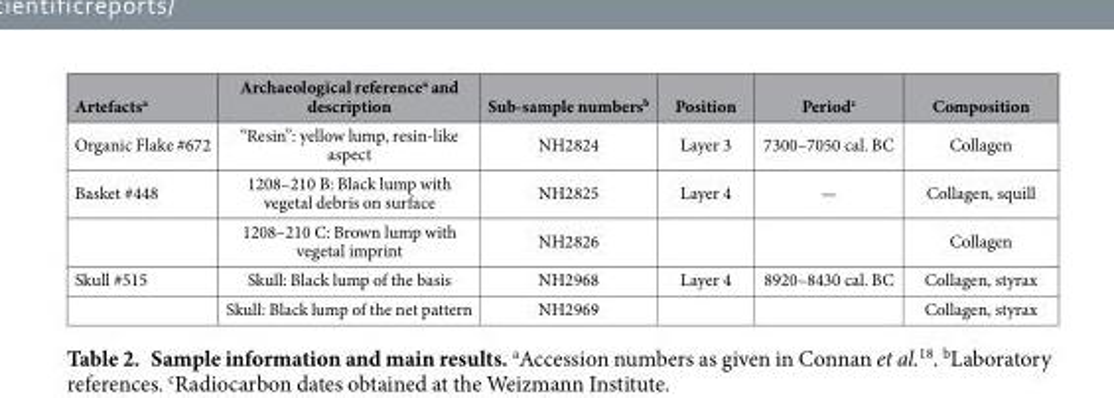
<table><thead><tr><td>Artefacts<sup>a</sup></td><td>Archaeological reference<sup>a</sup> and description</td><td>Sub-sample numbers<sup>b</sup></td><td>Position</td><td>Period<sup>c</sup></td><td>Composition</td></tr></thead><tbody><tr><td>Organic Flake #672</td><td>“Resin”: yellow lump, resin-like aspect</td><td>NH2824</td><td>Layer 3</td><td>7300–7050 cal. BC</td><td>Collagen</td></tr><tr><td rowspan="2">Basket #448</td><td>1208–210 B: Black lump with vegetal debris on surface</td><td>NH2825</td><td>Layer 4</td><td>—</td><td>Collagen, squill</td></tr><tr><td>1208–210 C: Brown lump with vegetal imprint</td><td>NH2826</td><td></td><td></td><td>Collagen</td></tr><tr><td rowspan="2">Skull #515</td><td>Skull: Black lump of the basis</td><td>NH2968</td><td>Layer 4</td><td>8920–8430 cal. BC</td><td>Collagen, styrax</td></tr><tr><td>Skull: Black lump of the net pattern</td><td>NH2969</td><td></td><td></td><td>Collagen, styrax</td></tr></tbody></table>